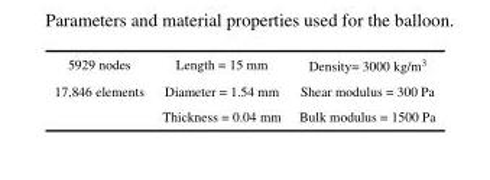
<table><tbody><tr><td>5929 nodes</td><td>Length = 15 mm</td><td>Density= 3000 kg/m<sup>3</sup></td></tr><tr><td rowspan="2">17,846 elements</td><td>Diameter = 1.54 mm</td><td>Shear modulus = 300 Pa</td></tr><tr><td>Thickness = 0.04 mm</td><td>Bulk modulus = 1500 Pa</td></tr></tbody></table>